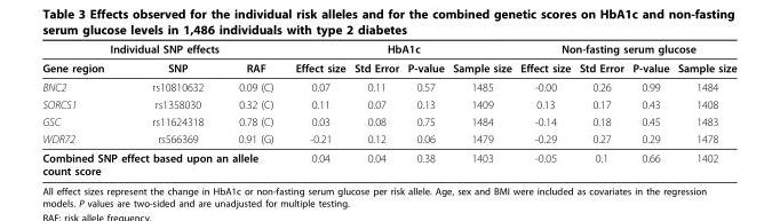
<table><thead><tr><td colspan="3">Individual SNP effects</td><td colspan="4">HbA1c</td><td colspan="4">Non-fasting serum glucose</td></tr><tr><td>Gene region</td><td>SNP</td><td>RAF</td><td>Effect size</td><td>Std Error</td><td>P-value</td><td>Sample size</td><td>Effect size</td><td>Std Error</td><td>P-value</td><td>Sample size</td></tr></thead><tbody><tr><td>BNC2</td><td>rs10810632</td><td>0.09 (C)</td><td>0.07</td><td>0.11</td><td>0.57</td><td>1485</td><td>-0.00</td><td>0.26</td><td>0.99</td><td>1484</td></tr><tr><td>SORCS1</td><td>rs1358030</td><td>0.32 (C)</td><td>0.11</td><td>0.07</td><td>0.13</td><td>1409</td><td>0.13</td><td>0.17</td><td>0.43</td><td>1408</td></tr><tr><td>GSC</td><td>rs11624318</td><td>0.78 (C)</td><td>0.03</td><td>0.08</td><td>0.75</td><td>1484</td><td>-0.14</td><td>0.18</td><td>0.45</td><td>1483</td></tr><tr><td>WDR72</td><td>rs566369</td><td>0.91 (G)</td><td>-0.21</td><td>0.12</td><td>0.06</td><td>1479</td><td>-0.29</td><td>0.27</td><td>0.29</td><td>1478</td></tr><tr><td colspan="3">Combined SNP effect based upon an allele count score</td><td>0.04</td><td>0.04</td><td>0.38</td><td>1403</td><td>-0.05</td><td>0.1</td><td>0.66</td><td>1402</td></tr></tbody></table>